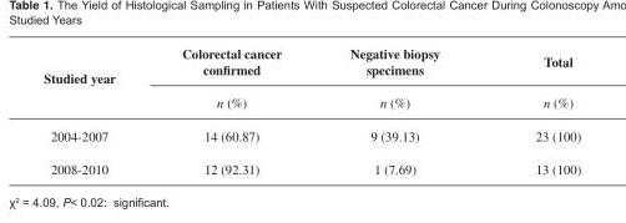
<table><thead><tr><td rowspan="2">Studied year</td><td rowspan="2">Colorectal cancer confi rmed n (%)</td><td rowspan="2">Negative biopsy specimens n (%)</td><td rowspan="2">Total n (%)</td></tr><tr></tr></thead><tbody><tr><td>2004-2007</td><td>14 (60.87)</td><td>9 (39.13)</td><td>23 (100)</td></tr><tr><td>2008-2010</td><td>12 (92.31)</td><td>1 (7.69)</td><td>13 (100)</td></tr></tbody></table>